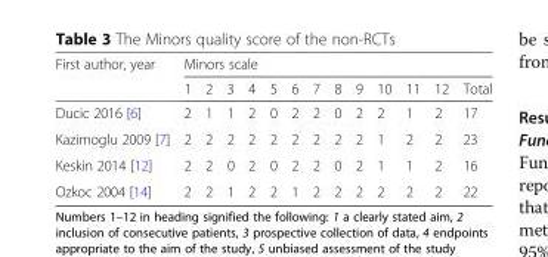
<table><thead><tr><td rowspan="2">First author, year</td><td colspan="13">Minors scale</td></tr><tr><td>1</td><td>2</td><td>3</td><td>4</td><td>5</td><td>6</td><td>7</td><td>8</td><td>9</td><td>10</td><td>11</td><td>12</td><td>Total</td></tr></thead><tbody><tr><td>Ducic 2016 [6]</td><td>2</td><td>1</td><td>1</td><td>2</td><td>0</td><td>2</td><td>2</td><td>0</td><td>2</td><td>2</td><td>1</td><td>2</td><td>17</td></tr><tr><td>Kazimoglu 2009 [7]</td><td>2</td><td>2</td><td>2</td><td>2</td><td>2</td><td>2</td><td>2</td><td>2</td><td>2</td><td>1</td><td>2</td><td>2</td><td>23</td></tr><tr><td>Keskin 2014 [12]</td><td>2</td><td>2</td><td>0</td><td>2</td><td>0</td><td>2</td><td>2</td><td>0</td><td>2</td><td>1</td><td>1</td><td>2</td><td>16</td></tr><tr><td>Ozkoc 2004 [14]</td><td>2</td><td>2</td><td>1</td><td>2</td><td>2</td><td>1</td><td>2</td><td>2</td><td>2</td><td>2</td><td>2</td><td>2</td><td>22</td></tr></tbody></table>